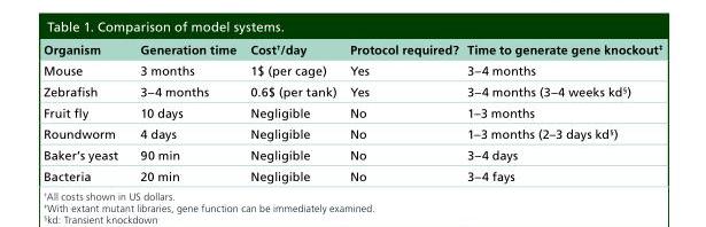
<table><thead><tr><td>Organism</td><td>Generation time</td><td>Cost<sup>†</sup>/day</td><td>Protocol required?</td><td>Time to generate gene knockout<sup>‡</sup></td></tr></thead><tbody><tr><td>Mouse</td><td>3 months</td><td>1$ (per cage)</td><td>Yes</td><td>3–4 months</td></tr><tr><td>Zebrafish</td><td>3–4 months</td><td>0.6$ (per tank)</td><td>Yes</td><td>3–4 months (3–4 weeks kd<sup>§</sup>)</td></tr><tr><td>Fruit fly</td><td>10 days</td><td>Negligible</td><td>No</td><td>1–3 months</td></tr><tr><td>Roundworm</td><td>4 days</td><td>Negligible</td><td>No</td><td>1–3 months (2–3 days kd<sup>§</sup>)</td></tr><tr><td>Baker’s yeast</td><td>90 min</td><td>Negligible</td><td>No</td><td>3–4 days</td></tr><tr><td>Bacteria</td><td>20 min</td><td>Negligible</td><td>No</td><td>3–4 fays</td></tr></tbody></table>